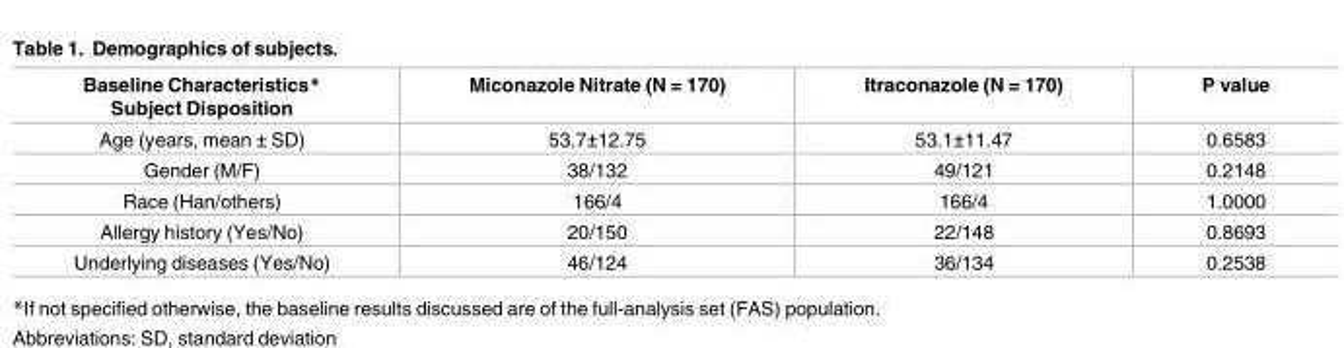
<table><thead><tr><td>Baseline Characteristics* Subject Disposition</td><td>Miconazole Nitrate (N = 170)</td><td>Itraconazole (N = 170)</td><td>P value</td></tr></thead><tbody><tr><td>Age (years, mean ± SD)</td><td>53.7±12.75</td><td>53.1±11.47</td><td>0.6583</td></tr><tr><td>Gender (M/F)</td><td>38/132</td><td>49/121</td><td>0.2148</td></tr><tr><td>Race (Han/others)</td><td>166/4</td><td>166/4</td><td>1.0000</td></tr><tr><td>Allergy history (Yes/No)</td><td>20/150</td><td>22/148</td><td>0.8693</td></tr><tr><td>Underlying diseases (Yes/No)</td><td>46/124</td><td>36/134</td><td>0.2538</td></tr></tbody></table>